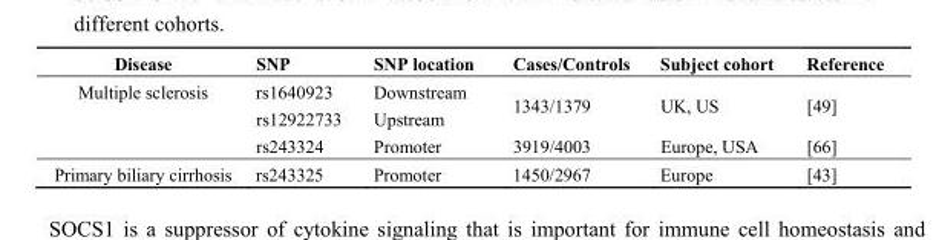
<table><thead><tr><td>Disease</td><td>SNP</td><td>SNP location</td><td>Cases/Controls</td><td>Subject cohort</td><td>Reference</td></tr></thead><tbody><tr><td rowspan="3">Multiple sclerosis</td><td>rs1640923</td><td>Downstream</td><td rowspan="2">1343/1379</td><td rowspan="2">UK, US</td><td rowspan="2">[49]</td></tr><tr><td>rs12922733</td><td>Upstream</td></tr><tr><td>rs243324</td><td>Promoter</td><td>3919/4003</td><td>Europe, USA</td><td>[66]</td></tr><tr><td>Primary biliary cirrhosis</td><td>rs243325</td><td>Promoter</td><td>1450/2967</td><td>Europe</td><td>[43]</td></tr></tbody></table>